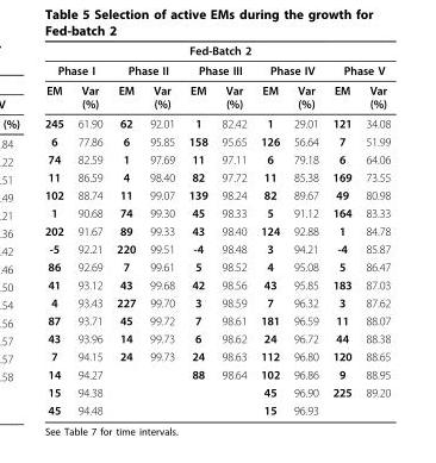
<table><thead><tr><td colspan="10">Fed-Batch 2</td></tr><tr><td colspan="2">Phase I</td><td colspan="2">Phase II</td><td colspan="2">Phase III</td><td colspan="2">Phase IV</td><td colspan="2">Phase V</td></tr><tr><td>EM</td><td>Var (%)</td><td>EM</td><td>Var (%)</td><td>EM</td><td>Var (%)</td><td>EM</td><td>Var (%)</td><td>EM</td><td>Var (%)</td></tr></thead><tbody><tr><td>245</td><td>61.90</td><td>62</td><td>92.01</td><td>1</td><td>82.42</td><td>1</td><td>29.01</td><td>121</td><td>34.08</td></tr><tr><td>6</td><td>77.86</td><td>6</td><td>95.85</td><td>158</td><td>95.65</td><td>126</td><td>56.64</td><td>7</td><td>51.99</td></tr><tr><td>74</td><td>82.59</td><td>1</td><td>97.69</td><td>11</td><td>97.11</td><td>6</td><td>79.18</td><td>6</td><td>64.06</td></tr><tr><td>11</td><td>86.59</td><td>4</td><td>98.40</td><td>82</td><td>97.72</td><td>11</td><td>85.38</td><td>169</td><td>73.55</td></tr><tr><td>102</td><td>88.74</td><td>11</td><td>99.07</td><td>139</td><td>98.24</td><td>82</td><td>89.67</td><td>49</td><td>80.98</td></tr><tr><td>1</td><td>90.68</td><td>74</td><td>99.30</td><td>45</td><td>98.33</td><td>5</td><td>91.12</td><td>164</td><td>83.33</td></tr><tr><td>202</td><td>91.67</td><td>89</td><td>99.33</td><td>43</td><td>98.40</td><td>124</td><td>92.88</td><td>1</td><td>84.78</td></tr><tr><td>-5</td><td>92.21</td><td>220</td><td>99.51</td><td>-4</td><td>98.48</td><td>3</td><td>94.21</td><td>-4</td><td>85.87</td></tr><tr><td>86</td><td>92.69</td><td>7</td><td>99.61</td><td>5</td><td>98.52</td><td>4</td><td>95.08</td><td>5</td><td>86.47</td></tr><tr><td>41</td><td>93.12</td><td>43</td><td>99.68</td><td>42</td><td>98.56</td><td>43</td><td>95.85</td><td>183</td><td>87.03</td></tr><tr><td>4</td><td>93.43</td><td>227</td><td>99.70</td><td>3</td><td>98.59</td><td>7</td><td>96.32</td><td>3</td><td>87.62</td></tr><tr><td>87</td><td>93.71</td><td>45</td><td>99.72</td><td>7</td><td>98.61</td><td>181</td><td>96.59</td><td>11</td><td>88.07</td></tr><tr><td>43</td><td>93.96</td><td>14</td><td>99.73</td><td>6</td><td>98.62</td><td>24</td><td>96.72</td><td>44</td><td>88.38</td></tr><tr><td>7</td><td>94.15</td><td>24</td><td>99.73</td><td>24</td><td>98.63</td><td>112</td><td>96.80</td><td>120</td><td>88.65</td></tr><tr><td>14</td><td>94.27</td><td></td><td></td><td>88</td><td>98.64</td><td>102</td><td>96.86</td><td>9</td><td>88.95</td></tr><tr><td>15</td><td>94.38</td><td></td><td></td><td></td><td></td><td>45</td><td>96.90</td><td>225</td><td>89.20</td></tr><tr><td>45</td><td>94.48</td><td></td><td></td><td></td><td></td><td>15</td><td>96.93</td><td></td><td></td></tr></tbody></table>